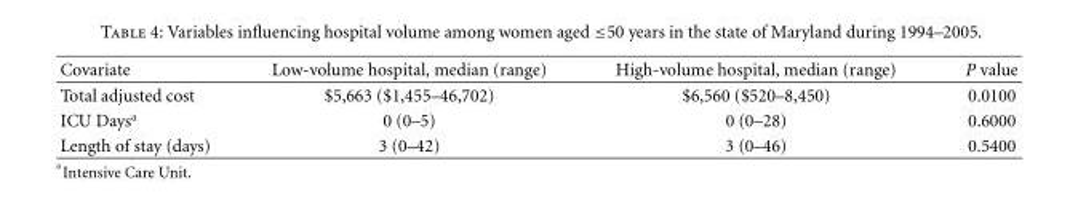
<table><thead><tr><td>Covariate</td><td>Low-volume hospital, median (range)</td><td>High-volume hospital, median (range)</td><td>P value</td></tr></thead><tbody><tr><td>Total adjusted cost</td><td>$5,663 ($1,455–46,702)</td><td>$6,560 ($520–8,450)</td><td>0.0100</td></tr><tr><td>ICU Days<sup>a</sup></td><td>0 (0–5)</td><td>0 (0–28)</td><td>0.6000</td></tr><tr><td>Length of stay (days)</td><td>3 (0–42)</td><td>3 (0–46)</td><td>0.5400</td></tr></tbody></table>